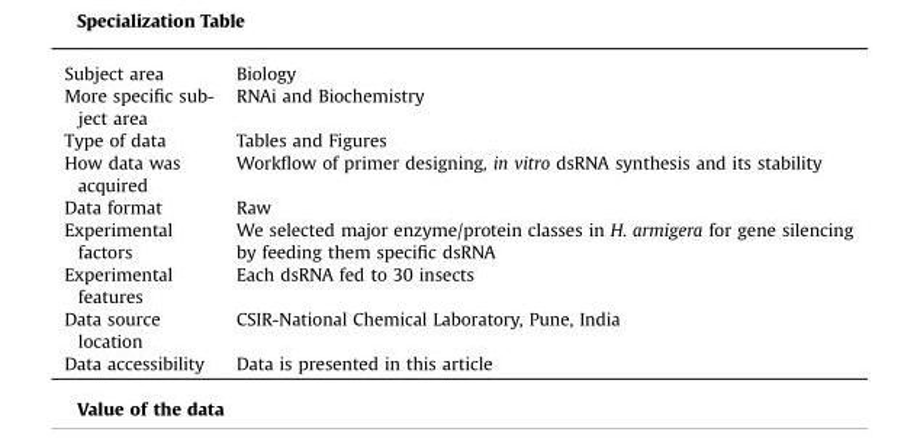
<table><tbody><tr><td>Subject area</td><td>Biology</td></tr><tr><td>More specific sub- ject area</td><td>RNAi and Biochemistry</td></tr><tr><td>Type of data</td><td>Tables and Figures</td></tr><tr><td>How data was acquired</td><td>Workflow of primer designing, in vitro dsRNA synthesis and its stability</td></tr><tr><td>Data format</td><td>Raw</td></tr><tr><td>Experimental factors</td><td>We selected major enzyme/protein classes in H. armigera for gene silencing by feeding them specific dsRNA</td></tr><tr><td>Experimental features</td><td>Each dsRNA fed to 30 insects</td></tr><tr><td>Data source location</td><td>CSIR-National Chemical Laboratory, Pune, India</td></tr><tr><td>Data accessibility</td><td>Data is presented in this article</td></tr></tbody></table>